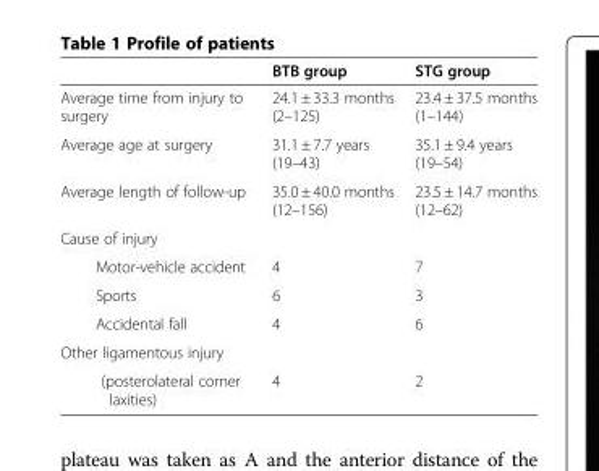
<table><thead><tr><td></td><td>BTB group</td><td>STG group</td></tr></thead><tbody><tr><td>Average time from injury to surgery</td><td>24.1 ± 33.3 months (2–125)</td><td>23.4 ± 37.5 months (1–144)</td></tr><tr><td>Average age at surgery</td><td>31.1 ± 7.7 years (19–43)</td><td>35.1 ± 9.4 years (19–54)</td></tr><tr><td>Average length of follow-up</td><td>35.0 ± 40.0 months (12–156)</td><td>23.5 ± 14.7 months (12–62)</td></tr><tr><td colspan="3">Cause of injury</td></tr><tr><td>Motor-vehicle accident</td><td>4</td><td>7</td></tr><tr><td>Sports</td><td>6</td><td>3</td></tr><tr><td>Accidental fall</td><td>4</td><td>6</td></tr><tr><td colspan="3">Other ligamentous injury</td></tr><tr><td>(posterolateral corner laxities)</td><td>4</td><td>2</td></tr></tbody></table>